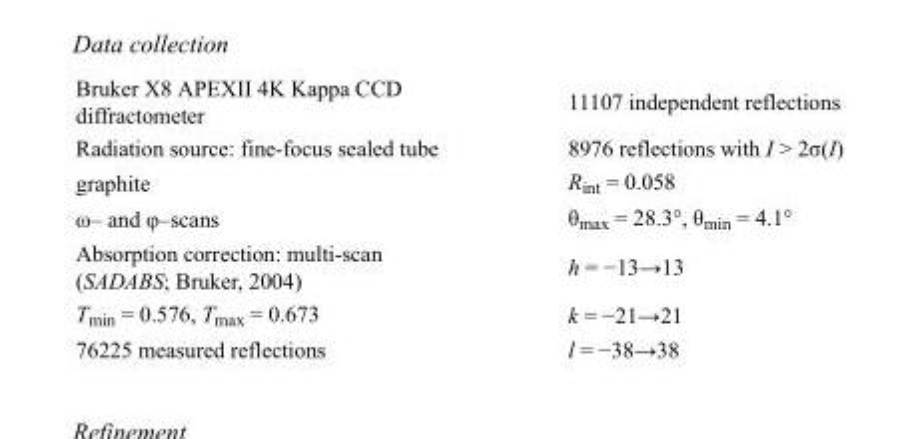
<table><tbody><tr><td>Bruker X8 APEXII 4K Kappa CCD diffractometer</td><td>11107 independent reflections</td></tr><tr><td>Radiation source: fine-focus sealed tube</td><td>8976 reflections with I &gt; 2σ(I)</td></tr><tr><td>graphite</td><td>R<sub>int</sub> = 0.058</td></tr><tr><td>ω– and φ–scans</td><td>θ<sub>max</sub> = 28.3°, θ<sub>min</sub> = 4.1°</td></tr><tr><td>Absorption correction: multi-scan (SADABS; Bruker, 2004)</td><td>h = −13→13</td></tr><tr><td>T<sub>min</sub> = 0.576, T<sub>max</sub> = 0.673</td><td>k = −21→21</td></tr><tr><td>76225 measured reflections</td><td>l = −38→38</td></tr></tbody></table>